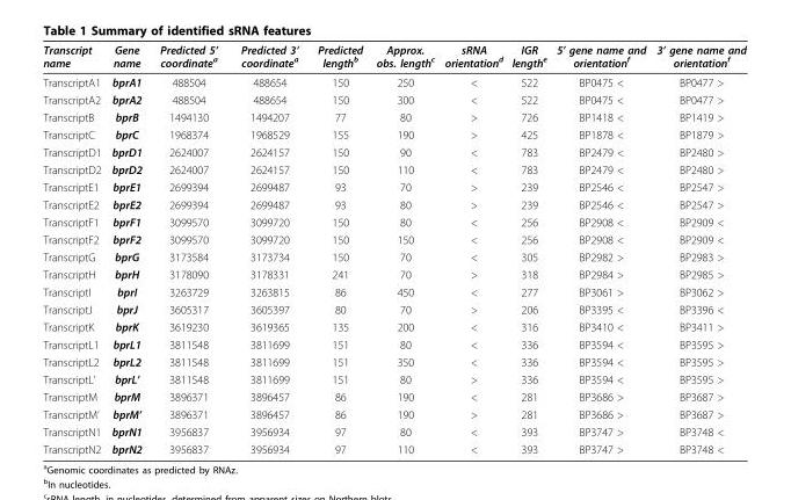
<table><thead><tr><td>Transcript name</td><td>Gene name</td><td>Predicted 5’ coordinate<sup>a</sup></td><td>Predicted 3’ coordinate<sup>a</sup></td><td>Predicted length<sup>b</sup></td><td>Approx. obs. length<sup>c</sup></td><td>sRNA orientation<sup>d</sup></td><td>IGR length<sup>e</sup></td><td>5’ gene name and orientation<sup>f</sup></td><td>3’ gene name and orientation<sup>f</sup></td></tr></thead><tbody><tr><td>TranscriptA1</td><td>bprA1</td><td>488504</td><td>488654</td><td>150</td><td>250</td><td>&lt;</td><td>522</td><td>BP0475 &lt;</td><td>BP0477 &gt;</td></tr><tr><td>TranscriptA2</td><td>bprA2</td><td>488504</td><td>488654</td><td>150</td><td>300</td><td>&lt;</td><td>522</td><td>BP0475 &lt;</td><td>BP0477 &gt;</td></tr><tr><td>TranscriptB</td><td>bprB</td><td>1494130</td><td>1494207</td><td>77</td><td>80</td><td>&gt;</td><td>726</td><td>BP1418 &lt;</td><td>BP1419 &gt;</td></tr><tr><td>TranscriptC</td><td>bprC</td><td>1968374</td><td>1968529</td><td>155</td><td>190</td><td>&gt;</td><td>425</td><td>BP1878 &lt;</td><td>BP1879 &gt;</td></tr><tr><td>TranscriptD1</td><td>bprD1</td><td>2624007</td><td>2624157</td><td>150</td><td>90</td><td>&lt;</td><td>783</td><td>BP2479 &lt;</td><td>BP2480 &gt;</td></tr><tr><td>TranscriptD2</td><td>bprD2</td><td>2624007</td><td>2624157</td><td>150</td><td>110</td><td>&lt;</td><td>783</td><td>BP2479 &lt;</td><td>BP2480 &gt;</td></tr><tr><td>TranscriptE1</td><td>bprE1</td><td>2699394</td><td>2699487</td><td>93</td><td>70</td><td>&gt;</td><td>239</td><td>BP2546 &lt;</td><td>BP2547 &gt;</td></tr><tr><td>TranscriptE2</td><td>bprE2</td><td>2699394</td><td>2699487</td><td>93</td><td>80</td><td>&gt;</td><td>239</td><td>BP2546 &lt;</td><td>BP2547 &gt;</td></tr><tr><td>TranscriptF1</td><td>bprF1</td><td>3099570</td><td>3099720</td><td>150</td><td>80</td><td>&lt;</td><td>256</td><td>BP2908 &lt;</td><td>BP2909 &lt;</td></tr><tr><td>TranscriptF2</td><td>bprF2</td><td>3099570</td><td>3099720</td><td>150</td><td>150</td><td>&lt;</td><td>256</td><td>BP2908 &lt;</td><td>BP2909 &lt;</td></tr><tr><td>TranscriptG</td><td>bprG</td><td>3173584</td><td>3173734</td><td>150</td><td>70</td><td>&lt;</td><td>305</td><td>BP2982 &gt;</td><td>BP2983 &gt;</td></tr><tr><td>TranscriptH</td><td>bprH</td><td>3178090</td><td>3178331</td><td>241</td><td>70</td><td>&gt;</td><td>318</td><td>BP2984 &gt;</td><td>BP2985 &gt;</td></tr><tr><td>TranscriptI</td><td>bprI</td><td>3263729</td><td>3263815</td><td>86</td><td>450</td><td>&lt;</td><td>277</td><td>BP3061 &gt;</td><td>BP3062 &gt;</td></tr><tr><td>TranscriptJ</td><td>bprJ</td><td>3605317</td><td>3605397</td><td>80</td><td>70</td><td>&gt;</td><td>206</td><td>BP3395 &lt;</td><td>BP3396 &lt;</td></tr><tr><td>TranscriptK</td><td>bprK</td><td>3619230</td><td>3619365</td><td>135</td><td>200</td><td>&lt;</td><td>316</td><td>BP3410 &lt;</td><td>BP3411 &gt;</td></tr><tr><td>TranscriptL1</td><td>bprL1</td><td>3811548</td><td>3811699</td><td>151</td><td>80</td><td>&lt;</td><td>336</td><td>BP3594 &lt;</td><td>BP3595 &gt;</td></tr><tr><td>TranscriptL2</td><td>bprL2</td><td>3811548</td><td>3811699</td><td>151</td><td>350</td><td>&lt;</td><td>336</td><td>BP3594 &lt;</td><td>BP3595 &gt;</td></tr><tr><td>TranscriptL’</td><td>bprL’</td><td>3811548</td><td>3811699</td><td>151</td><td>80</td><td>&gt;</td><td>336</td><td>BP3594 &lt;</td><td>BP3595 &gt;</td></tr><tr><td>TranscriptM</td><td>bprM</td><td>3896371</td><td>3896457</td><td>86</td><td>190</td><td>&lt;</td><td>281</td><td>BP3686 &gt;</td><td>BP3687 &gt;</td></tr><tr><td>TranscriptM’</td><td>bprM’</td><td>3896371</td><td>3896457</td><td>86</td><td>190</td><td>&gt;</td><td>281</td><td>BP3686 &gt;</td><td>BP3687 &gt;</td></tr><tr><td>TranscriptN1</td><td>bprN1</td><td>3956837</td><td>3956934</td><td>97</td><td>80</td><td>&lt;</td><td>393</td><td>BP3747 &gt;</td><td>BP3748 &lt;</td></tr><tr><td>TranscriptN2</td><td>bprN2</td><td>3956837</td><td>3956934</td><td>97</td><td>110</td><td>&lt;</td><td>393</td><td>BP3747 &gt;</td><td>BP3748 &lt;</td></tr></tbody></table>